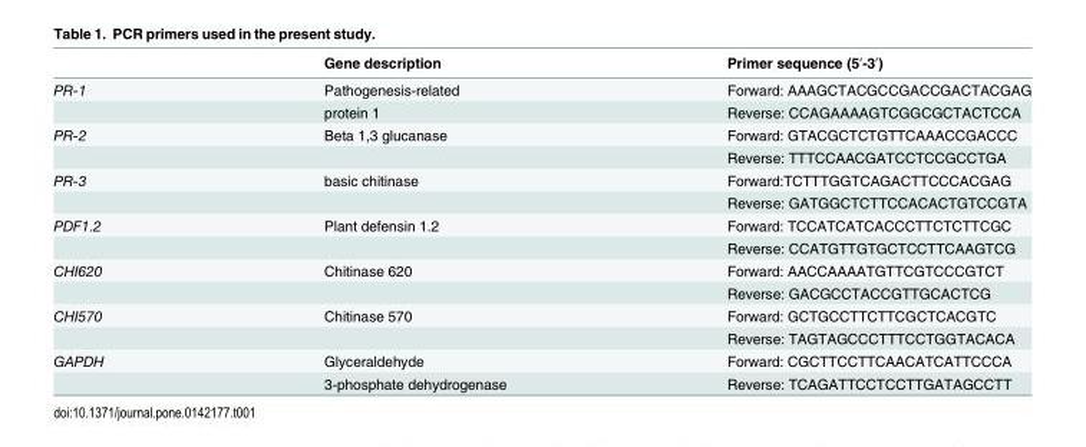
<table><thead><tr><td></td><td>Gene description</td><td>Primer sequence (5ʹ-3ʹ)</td></tr></thead><tbody><tr><td rowspan="2">PR-1</td><td>Pathogenesis-related</td><td>Forward: AAAGCTACGCCGACCGACTACGAG</td></tr><tr><td>protein 1</td><td>Reverse: CCAGAAAAGTCGGCGCTACTCCA</td></tr><tr><td rowspan="2">PR-2</td><td>Beta 1,3 glucanase</td><td>Forward: GTACGCTCTGTTCAAACCGACCC</td></tr><tr><td></td><td>Reverse: TTTCCAACGATCCTCCGCCTGA</td></tr><tr><td rowspan="2">PR-3</td><td>basic chitinase</td><td>Forward:TCTTTGGTCAGACTTCCCACGAG</td></tr><tr><td></td><td>Reverse: GATGGCTCTTCCACACTGTCCGTA</td></tr><tr><td rowspan="2">PDF1.2</td><td>Plant defensin 1.2</td><td>Forward: TCCATCATCACCCTTCTCTTCGC</td></tr><tr><td></td><td>Reverse: CCATGTTGTGCTCCTTCAAGTCG</td></tr><tr><td rowspan="2">CHI620</td><td>Chitinase 620</td><td>Forward: AACCAAAATGTTCGTCCCGTCT</td></tr><tr><td></td><td>Reverse: GACGCCTACCGTTGCACTCG</td></tr><tr><td rowspan="2">CHI570</td><td>Chitinase 570</td><td>Forward: GCTGCCTTCTTCGCTCACGTC</td></tr><tr><td></td><td>Reverse: TAGTAGCCCTTTCCTGGTACACA</td></tr><tr><td rowspan="2">GAPDH</td><td>Glyceraldehyde</td><td>Forward: CGCTTCCTTCAACATCATTCCCA</td></tr><tr><td>3-phosphate dehydrogenase</td><td>Reverse: TCAGATTCCTCCTTGATAGCCTT</td></tr></tbody></table>